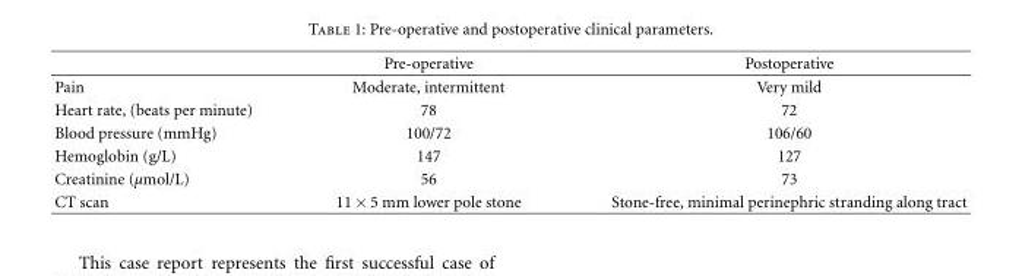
<table><thead><tr><td></td><td>Pre-operative</td><td>Postoperative</td></tr></thead><tbody><tr><td>Pain</td><td>Moderate, intermittent</td><td>Very mild</td></tr><tr><td>Heart rate, (beats per minute)</td><td>78</td><td>72</td></tr><tr><td>Blood pressure (mmHg)</td><td>100/72</td><td>106/60</td></tr><tr><td>Hemoglobin (g/L)</td><td>147</td><td>127</td></tr><tr><td>Creatinine (µmol/L)</td><td>56</td><td>73</td></tr><tr><td>CT scan</td><td>11 × 5 mm lower pole stone</td><td>Stone-free, minimal perinephric stranding along tract</td></tr></tbody></table>